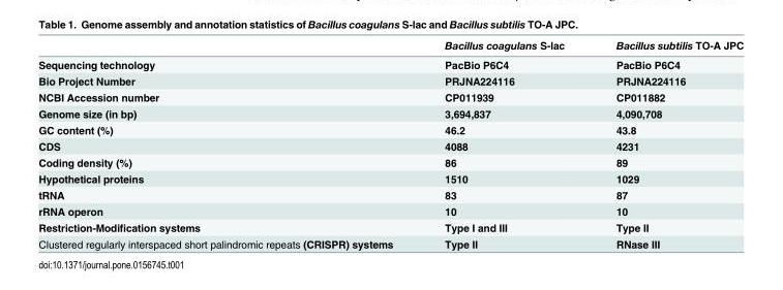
<table><thead><tr><td></td><td>Bacillus coagulans S-lac</td><td>Bacillus subtilis TO-A JPC</td></tr></thead><tbody><tr><td>Sequencing technology</td><td>PacBio P6C4</td><td>PacBio P6C4</td></tr><tr><td>Bio Project Number</td><td>PRJNA224116</td><td>PRJNA224116</td></tr><tr><td>NCBI Accession number</td><td>CP011939</td><td>CP011882</td></tr><tr><td>Genome size (in bp)</td><td>3,694,837</td><td>4,090,708</td></tr><tr><td>GC content (%)</td><td>46.2</td><td>43.8</td></tr><tr><td>CDS</td><td>4088</td><td>4231</td></tr><tr><td>Coding density (%)</td><td>86</td><td>89</td></tr><tr><td>Hypothetical proteins</td><td>1510</td><td>1029</td></tr><tr><td>tRNA</td><td>83</td><td>87</td></tr><tr><td>rRNA operon</td><td>10</td><td>10</td></tr><tr><td>Restriction-Modification systems</td><td>Type I and III</td><td>Type II</td></tr><tr><td>Clustered regularly interspaced short palindromic repeats (CRISPR) systems</td><td>Type II</td><td>RNase III</td></tr></tbody></table>